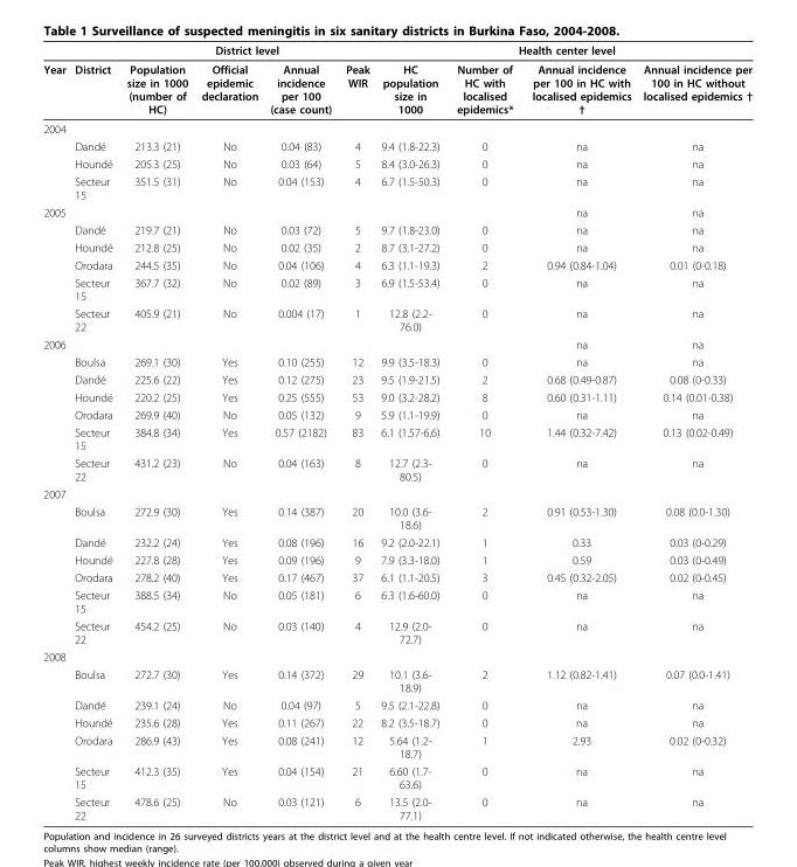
<table><thead><tr><td rowspan="2">Year</td><td rowspan="2">District</td><td colspan="4">District level</td><td colspan="4">Health center level</td></tr><tr><td>Population size in 1000 (number of HC)</td><td>Official epidemic declaration</td><td>Annual incidence per 100 (case count)</td><td>Peak WIR</td><td>HC population size in 1000</td><td>Number of HC with localised epidemics*</td><td>Annual incidence per 100 in HC with localised epidemics †</td><td>Annual incidence per 100 in HC without localised epidemics †</td></tr></thead><tbody><tr><td colspan="10">2004</td></tr><tr><td></td><td>Dandé</td><td>213.3 (21)</td><td>No</td><td>0.04 (83)</td><td>4</td><td>9.4 (1.8-22.3)</td><td>0</td><td>na</td><td>na</td></tr><tr><td></td><td>Houndé</td><td>205.3 (25)</td><td>No</td><td>0.03 (64)</td><td>5</td><td>8.4 (3.0-26.3)</td><td>0</td><td>na</td><td>na</td></tr><tr><td></td><td>Secteur 15</td><td>351.5 (31)</td><td>No</td><td>0.04 (153)</td><td>4</td><td>6.7 (1.5-50.3)</td><td>0</td><td>na</td><td>na</td></tr><tr><td rowspan="6">2005</td><td></td><td></td><td></td><td></td><td></td><td></td><td></td><td>na</td><td>na</td></tr><tr><td>Dandé</td><td>219.7 (21)</td><td>No</td><td>0.03 (72)</td><td>5</td><td>9.7 (1.8-23.0)</td><td>0</td><td>na</td><td>na</td></tr><tr><td>Houndé</td><td>212.8 (25)</td><td>No</td><td>0.02 (35)</td><td>2</td><td>8.7 (3.1-27.2)</td><td>0</td><td>na</td><td>na</td></tr><tr><td>Orodara</td><td>244.5 (35)</td><td>No</td><td>0.04 (106)</td><td>4</td><td>6.3 (1.1-19.3)</td><td>2</td><td>0.94 (0.84-1.04)</td><td>0.01 (0-0.18)</td></tr><tr><td>Secteur 15</td><td>367.7 (32)</td><td>No</td><td>0.02 (89)</td><td>3</td><td>6.9 (1.5-53.4)</td><td>0</td><td>na</td><td>na</td></tr><tr><td>Secteur 22</td><td>405.9 (21)</td><td>No</td><td>0.004 (17)</td><td>1</td><td>12.8 (2.2- 76.0)</td><td>0</td><td>na</td><td>na</td></tr><tr><td rowspan="7">2006</td><td></td><td></td><td></td><td></td><td></td><td></td><td></td><td>na</td><td>na</td></tr><tr><td>Boulsa</td><td>269.1 (30)</td><td>Yes</td><td>0.10 (255)</td><td>12</td><td>9.9 (3.5-18.3)</td><td>0</td><td>na</td><td>na</td></tr><tr><td>Dandé</td><td>225.6 (22)</td><td>Yes</td><td>0.12 (275)</td><td>23</td><td>9.5 (1.9-21.5)</td><td>2</td><td>0.68 (0.49-0.87)</td><td>0.08 (0-0.33)</td></tr><tr><td>Houndé</td><td>220.2 (25)</td><td>Yes</td><td>0.25 (555)</td><td>53</td><td>9.0 (3.2-28.2)</td><td>8</td><td>0.60 (0.31-1.11)</td><td>0.14 (0.01-0.38)</td></tr><tr><td>Orodara</td><td>269.9 (40)</td><td>No</td><td>0.05 (132)</td><td>9</td><td>5.9 (1.1-19.9)</td><td>0</td><td>na</td><td>na</td></tr><tr><td>Secteur 15</td><td>384.8 (34)</td><td>Yes</td><td>0.57 (2182)</td><td>83</td><td>6.1 (1.57-6.6)</td><td>10</td><td>1.44 (0.32-7.42)</td><td>0.13 (0.02-0.49)</td></tr><tr><td>Secteur 22</td><td>431.2 (23)</td><td>No</td><td>0.04 (163)</td><td>8</td><td>12.7 (2.3- 80.5)</td><td>0</td><td>na</td><td>na</td></tr><tr><td colspan="10">2007</td></tr><tr><td></td><td>Boulsa</td><td>272.9 (30)</td><td>Yes</td><td>0.14 (387)</td><td>20</td><td>10.0 (3.6- 18.6)</td><td>2</td><td>0.91 (0.53-1.30)</td><td>0.08 (0.0-1.30)</td></tr><tr><td></td><td>Dandé</td><td>232.2 (24)</td><td>Yes</td><td>0.08 (196)</td><td>16</td><td>9.2 (2.0-22.1)</td><td>1</td><td>0.33</td><td>0.03 (0-0.29)</td></tr><tr><td></td><td>Houndé</td><td>227.8 (28)</td><td>Yes</td><td>0.09 (196)</td><td>9</td><td>7.9 (3.3-18.0)</td><td>1</td><td>0.59</td><td>0.03 (0-0.49)</td></tr><tr><td></td><td>Orodara</td><td>278.2 (40)</td><td>Yes</td><td>0.17 (467)</td><td>37</td><td>6.1 (1.1-20.5)</td><td>3</td><td>0.45 (0.32-2.05)</td><td>0.02 (0-0.45)</td></tr><tr><td></td><td>Secteur 15</td><td>388.5 (34)</td><td>No</td><td>0.05 (181)</td><td>6</td><td>6.3 (1.6-60.0)</td><td>0</td><td>na</td><td>na</td></tr><tr><td></td><td>Secteur 22</td><td>454.2 (25)</td><td>No</td><td>0.03 (140)</td><td>4</td><td>12.9 (2.0- 72.7)</td><td>0</td><td>na</td><td>na</td></tr><tr><td colspan="10">2008</td></tr><tr><td></td><td>Boulsa</td><td>272.7 (30)</td><td>Yes</td><td>0.14 (372)</td><td>29</td><td>10.1 (3.6- 18.9)</td><td>2</td><td>1.12 (0.82-1.41)</td><td>0.07 (0.0-1.41)</td></tr><tr><td></td><td>Dandé</td><td>239.1 (24)</td><td>No</td><td>0.04 (97)</td><td>5</td><td>9.5 (2.1-22.8)</td><td>0</td><td>na</td><td>na</td></tr><tr><td></td><td>Houndé</td><td>235.6 (28)</td><td>Yes</td><td>0.11 (267)</td><td>22</td><td>8.2 (3.5-18.7)</td><td>0</td><td>na</td><td>na</td></tr><tr><td></td><td>Orodara</td><td>286.9 (43)</td><td>Yes</td><td>0.08 (241)</td><td>12</td><td>5.64 (1.2- 18.7)</td><td>1</td><td>2.93</td><td>0.02 (0-0.32)</td></tr><tr><td></td><td>Secteur 15</td><td>412.3 (35)</td><td>Yes</td><td>0.04 (154)</td><td>21</td><td>6.60 (1.7- 63.6)</td><td>0</td><td>na</td><td>na</td></tr><tr><td></td><td>Secteur 22</td><td>478.6 (25)</td><td>No</td><td>0.03 (121)</td><td>6</td><td>13.5 (2.0- 77.1)</td><td>0</td><td>na</td><td>na</td></tr></tbody></table>